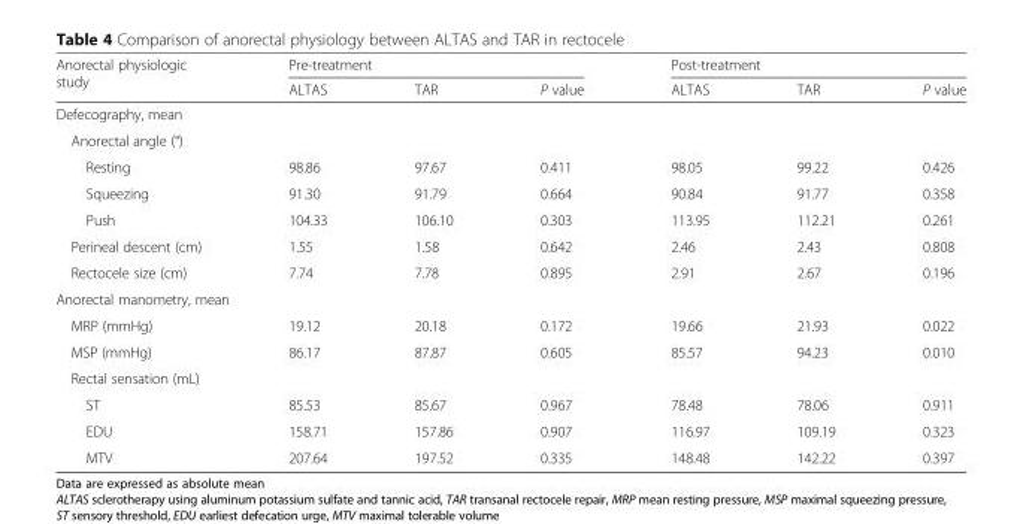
<table><thead><tr><td rowspan="2">Anorectal physiologic study</td><td colspan="3">Pre-treatment</td><td colspan="3">Post-treatment</td></tr><tr><td>ALTAS</td><td>TAR</td><td>P value</td><td>ALTAS</td><td>TAR</td><td>P value</td></tr></thead><tbody><tr><td colspan="7">Defecography, mean</td></tr><tr><td colspan="7">Anorectal angle (°)</td></tr><tr><td>Resting</td><td>98.86</td><td>97.67</td><td>0.411</td><td>98.05</td><td>99.22</td><td>0.426</td></tr><tr><td>Squeezing</td><td>91.30</td><td>91.79</td><td>0.664</td><td>90.84</td><td>91.77</td><td>0.358</td></tr><tr><td>Push</td><td>104.33</td><td>106.10</td><td>0.303</td><td>113.95</td><td>112.21</td><td>0.261</td></tr><tr><td>Perineal descent (cm)</td><td>1.55</td><td>1.58</td><td>0.642</td><td>2.46</td><td>2.43</td><td>0.808</td></tr><tr><td>Rectocele size (cm)</td><td>7.74</td><td>7.78</td><td>0.895</td><td>2.91</td><td>2.67</td><td>0.196</td></tr><tr><td colspan="7">Anorectal manometry, mean</td></tr><tr><td>MRP (mmHg)</td><td>19.12</td><td>20.18</td><td>0.172</td><td>19.66</td><td>21.93</td><td>0.022</td></tr><tr><td>MSP (mmHg)</td><td>86.17</td><td>87.87</td><td>0.605</td><td>85.57</td><td>94.23</td><td>0.010</td></tr><tr><td colspan="7">Rectal sensation (mL)</td></tr><tr><td>ST</td><td>85.53</td><td>85.67</td><td>0.967</td><td>78.48</td><td>78.06</td><td>0.911</td></tr><tr><td>EDU</td><td>158.71</td><td>157.86</td><td>0.907</td><td>116.97</td><td>109.19</td><td>0.323</td></tr><tr><td>MTV</td><td>207.64</td><td>197.52</td><td>0.335</td><td>148.48</td><td>142.22</td><td>0.397</td></tr></tbody></table>